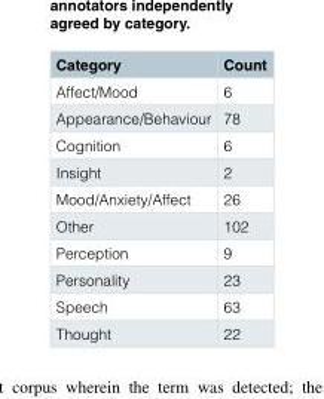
<table><thead><tr><td>Category</td><td>Count</td></tr></thead><tbody><tr><td>Affect/Mood</td><td>6</td></tr><tr><td>Appearance/Behaviour</td><td>78</td></tr><tr><td>Cognition</td><td>6</td></tr><tr><td>Insight</td><td>2</td></tr><tr><td>Mood/Anxiety/Affect</td><td>26</td></tr><tr><td>Other</td><td>102</td></tr><tr><td>Perception</td><td>9</td></tr><tr><td>Personality</td><td>23</td></tr><tr><td>Speech</td><td>63</td></tr><tr><td>Thought</td><td>22</td></tr></tbody></table>